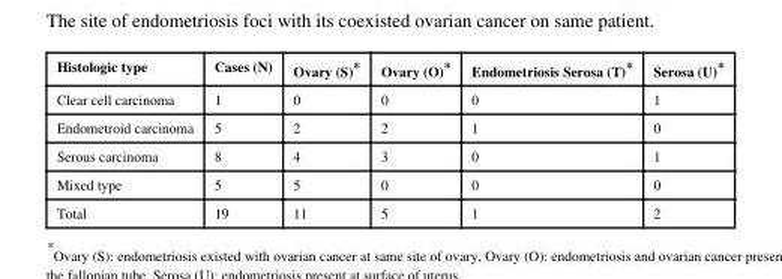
<table><thead><tr><td>Histologic type</td><td>Cases (N)</td><td>Ovary (S)*</td><td>Ovary (O)*</td><td>Endometriosis Serosa (T)*</td><td>Serosa (U)*</td></tr></thead><tbody><tr><td>Clear cell carcinoma</td><td>1</td><td>0</td><td>0</td><td>0</td><td>1</td></tr><tr><td>Endometroid carcinoma</td><td>5</td><td>2</td><td>2</td><td>1</td><td>0</td></tr><tr><td>Serous carcinoma</td><td>8</td><td>4</td><td>3</td><td>0</td><td>1</td></tr><tr><td>Mixed type</td><td>5</td><td>5</td><td>0</td><td>0</td><td>0</td></tr><tr><td>Total</td><td>19</td><td>11</td><td>5</td><td>1</td><td>2</td></tr></tbody></table>